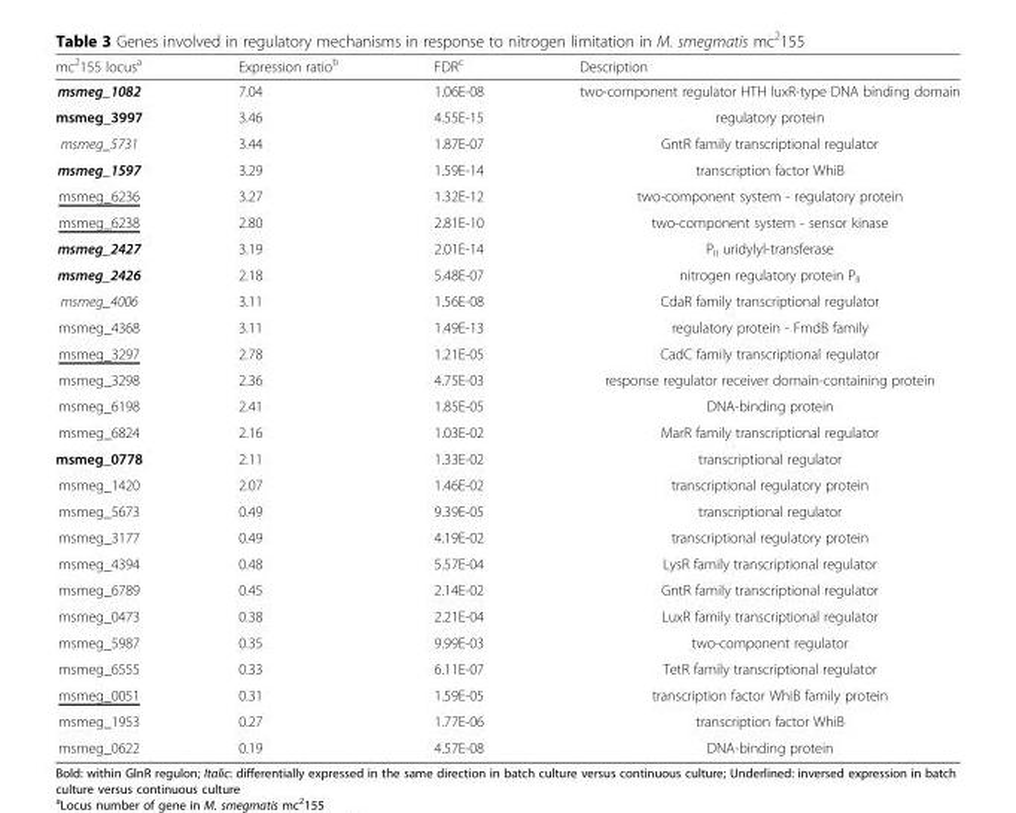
<table><thead><tr><td>mc<sup>2</sup>155 locus<sup>a</sup></td><td>Expression ratio<sup>b</sup></td><td>FDR<sup>c</sup></td><td>Description</td></tr></thead><tbody><tr><td>msmeg_1082</td><td>7.04</td><td>1.06E-08</td><td>two-component regulator HTH luxR-type DNA binding domain</td></tr><tr><td>msmeg_3997</td><td>3.46</td><td>4.55E-15</td><td>regulatory protein</td></tr><tr><td>msmeg_5731</td><td>3.44</td><td>1.87E-07</td><td>GntR family transcriptional regulator</td></tr><tr><td>msmeg_1597</td><td>3.29</td><td>1.59E-14</td><td>transcription factor WhiB</td></tr><tr><td>msmeg_6236</td><td>3.27</td><td>1.32E-12</td><td>two-component system - regulatory protein</td></tr><tr><td>msmeg_6238</td><td>2.80</td><td>2.81E-10</td><td>two-component system - sensor kinase</td></tr><tr><td>msmeg_2427</td><td>3.19</td><td>2.01E-14</td><td>P<sub>II</sub> uridylyl-transferase</td></tr><tr><td>msmeg_2426</td><td>2.18</td><td>5.48E-07</td><td>nitrogen regulatory protein P<sub>II</sub></td></tr><tr><td>msmeg_4006</td><td>3.11</td><td>1.56E-08</td><td>CdaR family transcriptional regulator</td></tr><tr><td>msmeg_4368</td><td>3.11</td><td>1.49E-13</td><td>regulatory protein - FmdB family</td></tr><tr><td>msmeg_3297</td><td>2.78</td><td>1.21E-05</td><td>CadC family transcriptional regulator</td></tr><tr><td>msmeg_3298</td><td>2.36</td><td>4.75E-03</td><td>response regulator receiver domain-containing protein</td></tr><tr><td>msmeg_6198</td><td>2.41</td><td>1.85E-05</td><td>DNA-binding protein</td></tr><tr><td>msmeg_6824</td><td>2.16</td><td>1.03E-02</td><td>MarR family transcriptional regulator</td></tr><tr><td>msmeg_0778</td><td>2.11</td><td>1.33E-02</td><td>transcriptional regulator</td></tr><tr><td>msmeg_1420</td><td>2.07</td><td>1.46E-02</td><td>transcriptional regulatory protein</td></tr><tr><td>msmeg_5673</td><td>0.49</td><td>9.39E-05</td><td>transcriptional regulator</td></tr><tr><td>msmeg_3177</td><td>0.49</td><td>4.19E-02</td><td>transcriptional regulatory protein</td></tr><tr><td>msmeg_4394</td><td>0.48</td><td>5.57E-04</td><td>LysR family transcriptional regulator</td></tr><tr><td>msmeg_6789</td><td>0.45</td><td>2.14E-02</td><td>GntR family transcriptional regulator</td></tr><tr><td>msmeg_0473</td><td>0.38</td><td>2.21E-04</td><td>LuxR family transcriptional regulator</td></tr><tr><td>msmeg_5987</td><td>0.35</td><td>9.99E-03</td><td>two-component regulator</td></tr><tr><td>msmeg_6555</td><td>0.33</td><td>6.11E-07</td><td>TetR family transcriptional regulator</td></tr><tr><td>msmeg_0051</td><td>0.31</td><td>1.59E-05</td><td>transcription factor WhiB family protein</td></tr><tr><td>msmeg_1953</td><td>0.27</td><td>1.77E-06</td><td>transcription factor WhiB</td></tr><tr><td>msmeg_0622</td><td>0.19</td><td>4.57E-08</td><td>DNA-binding protein</td></tr></tbody></table>